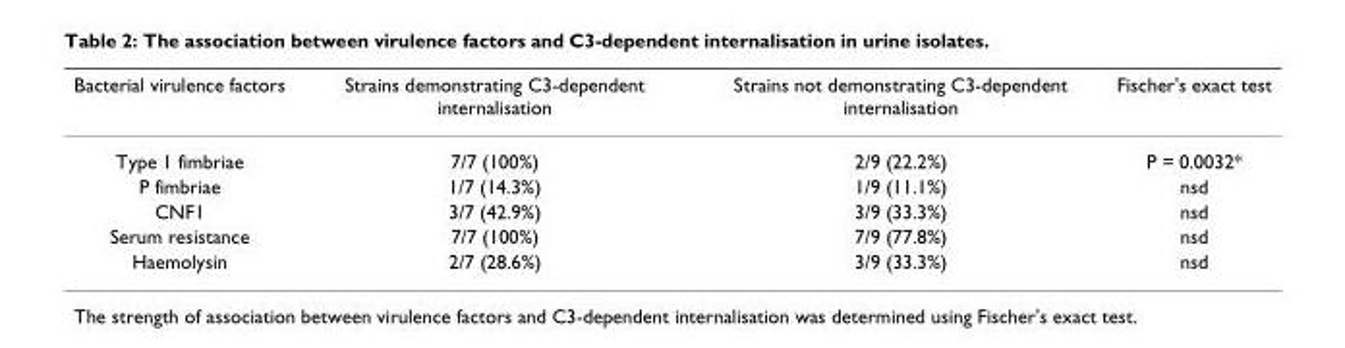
<table><thead><tr><td>Bacterial virulence factors</td><td>Strains demonstrating C3-dependent internalisation</td><td>Strains not demonstrating C3-dependent internalisation</td><td>Fischer&#x27;s exact test</td></tr></thead><tbody><tr><td>Type 1 fimbriae</td><td>7/7 (100%)</td><td>2/9 (22.2%)</td><td>P = 0.0032*</td></tr><tr><td>P fimbriae</td><td>1/7 (14.3%)</td><td>1/9 (11.1%)</td><td>nsd</td></tr><tr><td>CNF1</td><td>3/7 (42.9%)</td><td>3/9 (33.3%)</td><td>nsd</td></tr><tr><td>Serum resistance</td><td>7/7 (100%)</td><td>7/9 (77.8%)</td><td>nsd</td></tr><tr><td>Haemolysin</td><td>2/7 (28.6%)</td><td>3/9 (33.3%)</td><td>nsd</td></tr></tbody></table>